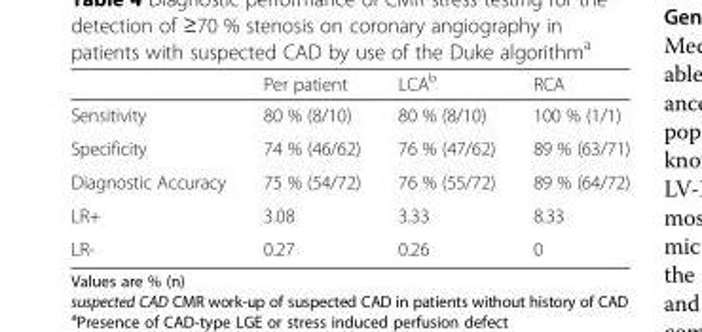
<table><thead><tr><td></td><td>Per patient</td><td>LCA<sup>b</sup></td><td>RCA</td></tr></thead><tbody><tr><td>Sensitivity</td><td>80 % (8/10)</td><td>80 % (8/10)</td><td>100 % (1/1)</td></tr><tr><td>Specificity</td><td>74 % (46/62)</td><td>76 % (47/62)</td><td>89 % (63/71)</td></tr><tr><td>Diagnostic Accuracy</td><td>75 % (54/72)</td><td>76 % (55/72)</td><td>89 % (64/72)</td></tr><tr><td>LR+</td><td>3.08</td><td>3.33</td><td>8.33</td></tr><tr><td>LR-</td><td>0.27</td><td>0.26</td><td>0</td></tr></tbody></table>